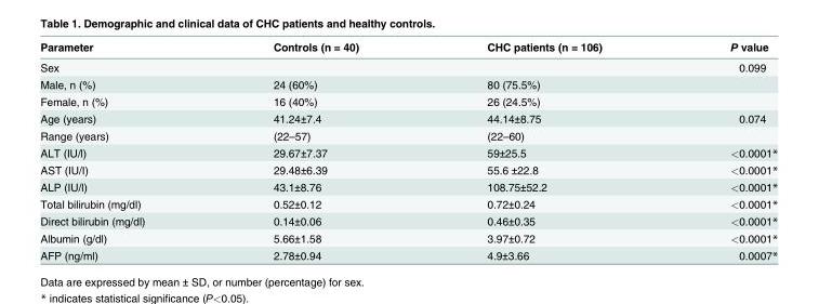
<table><thead><tr><td>Parameter</td><td>Controls (n = 40)</td><td>CHC patients (n = 106)</td><td>P value</td></tr></thead><tbody><tr><td>Sex</td><td></td><td></td><td>0.099</td></tr><tr><td>Male, n (%)</td><td>24 (60%)</td><td>80 (75.5%)</td><td></td></tr><tr><td>Female, n (%)</td><td>16 (40%)</td><td>26 (24.5%)</td><td></td></tr><tr><td>Age (years)</td><td>41.24±7.4</td><td>44.14±8.75</td><td>0.074</td></tr><tr><td>Range (years)</td><td>(22–57)</td><td>(22–60)</td><td></td></tr><tr><td>ALT (IU/l)</td><td>29.67±7.37</td><td>59±25.5</td><td>&lt;0.0001*</td></tr><tr><td>AST (IU/I)</td><td>29.48±6.39</td><td>55.6 ±22.8</td><td>&lt;0.0001*</td></tr><tr><td>ALP (IU/l)</td><td>43.1±8.76</td><td>108.75±52.2</td><td>&lt;0.0001*</td></tr><tr><td>Total bilirubin (mg/dl)</td><td>0.52±0.12</td><td>0.72±0.24</td><td>&lt;0.0001*</td></tr><tr><td>Direct bilirubin (mg/dl)</td><td>0.14±0.06</td><td>0.46±0.35</td><td>&lt;0.0001*</td></tr><tr><td>Albumin (g/dl)</td><td>5.66±1.58</td><td>3.97±0.72</td><td>&lt;0.0001*</td></tr><tr><td>AFP (ng/ml)</td><td>2.78±0.94</td><td>4.9±3.66</td><td>0.0007*</td></tr></tbody></table>